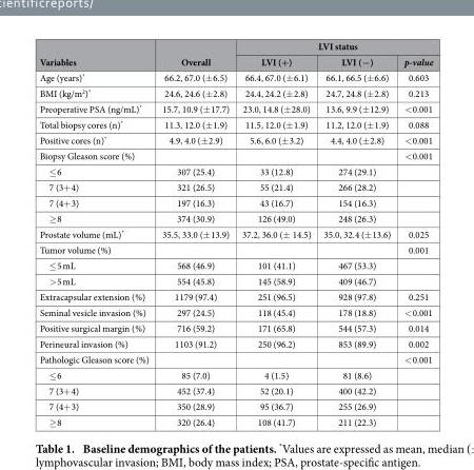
<table><thead><tr><td rowspan="2">Variables</td><td rowspan="2">Overall</td><td colspan="3">LVI status</td></tr><tr><td>LVI (+)</td><td>LVI (−)</td><td>p-value</td></tr></thead><tbody><tr><td>Age (years)*</td><td>66.2, 67.0 (± 6.5)</td><td>66.4, 67.0 (± 6.1)</td><td>66.1, 66.5 (± 6.6)</td><td>0.603</td></tr><tr><td>BMI (kg/m<sup>2</sup>)*</td><td>24.6, 24.6 (± 2.8)</td><td>24.4, 24.2 (± 2.8)</td><td>24.7, 24.8 (± 2.8)</td><td>0.213</td></tr><tr><td>Preoperative PSA (ng/mL)*</td><td>15.7, 10.9 (± 17.7)</td><td>23.0, 14.8 (± 28.0)</td><td>13.6, 9.9 (± 12.9)</td><td>&lt; 0.001</td></tr><tr><td>Total biopsy cores (n)*</td><td>11.3, 12.0 (± 1.9)</td><td>11.5, 12.0 (± 1.9)</td><td>11.2, 12.0 (± 1.9)</td><td>0.088</td></tr><tr><td>Positive cores (n)*</td><td>4.9, 4.0 (± 2.9)</td><td>5.6, 6.0 (± 3.2)</td><td>4.4, 4.0 (± 2.8)</td><td>&lt; 0.001</td></tr><tr><td>Biopsy Gleason score (%)</td><td></td><td></td><td></td><td>&lt; 0.001</td></tr><tr><td>≤ 6</td><td>307 (25.4)</td><td>33 (12.8)</td><td>274 (29.1)</td><td></td></tr><tr><td>7 (3+ 4)</td><td>321 (26.5)</td><td>55 (21.4)</td><td>266 (28.2)</td><td></td></tr><tr><td>7 (4+ 3)</td><td>197 (16.3)</td><td>43 (16.7)</td><td>154 (16.3)</td><td></td></tr><tr><td>≥ 8</td><td>374 (30.9)</td><td>126 (49.0)</td><td>248 (26.3)</td><td></td></tr><tr><td>Prostate volume (mL)*</td><td>35.5, 33.0 (± 13.9)</td><td>37.2, 36.0 (± 14.5)</td><td>35.0, 32.4 (± 13.6)</td><td>0.025</td></tr><tr><td>Tumor volume (%)</td><td></td><td></td><td></td><td>0.001</td></tr><tr><td>≤ 5 mL</td><td>568 (46.9)</td><td>101 (41.1)</td><td>467 (53.3)</td><td></td></tr><tr><td>&gt; 5 mL</td><td>554 (45.8)</td><td>145 (58.9)</td><td>409 (46.7)</td><td></td></tr><tr><td>Extracapsular extension (%)</td><td>1179 (97.4)</td><td>251 (96.5)</td><td>928 (97.8)</td><td>0.251</td></tr><tr><td>Seminal vesicle invasion (%)</td><td>297 (24.5)</td><td>118 (45.4)</td><td>178 (18.8)</td><td>&lt; 0.001</td></tr><tr><td>Positive surgical margin (%)</td><td>716 (59.2)</td><td>171 (65.8)</td><td>544 (57.3)</td><td>0.014</td></tr><tr><td>Perineural invasion (%)</td><td>1103 (91.2)</td><td>250 (96.2)</td><td>853 (89.9)</td><td>0.002</td></tr><tr><td>Pathologic Gleason score (%)</td><td></td><td></td><td></td><td>&lt; 0.001</td></tr><tr><td>≤ 6</td><td>85 (7.0)</td><td>4 (1.5)</td><td>81 (8.6)</td><td></td></tr><tr><td>7 (3+ 4)</td><td>452 (37.4)</td><td>52 (20.1)</td><td>400 (42.2)</td><td></td></tr><tr><td>7 (4+ 3)</td><td>350 (28.9)</td><td>95 (36.7)</td><td>255 (26.9)</td><td></td></tr><tr><td>≥ 8</td><td>320 (26.4)</td><td>108 (41.7)</td><td>211 (22.3)</td><td></td></tr></tbody></table>